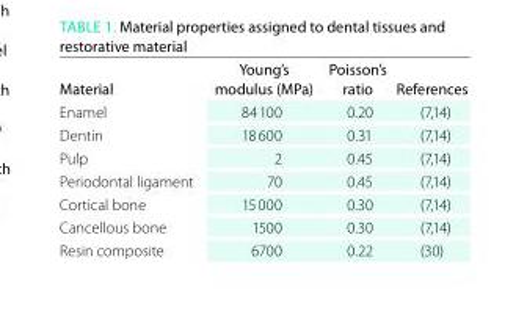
<table><thead><tr><td>Material</td><td>Young’s modulus (MPa)</td><td>Poisson’s ratio</td><td>references</td></tr></thead><tbody><tr><td>Enamel</td><td>84 100</td><td>0.20</td><td>(7,14)</td></tr><tr><td>Dentin</td><td>18 600</td><td>0.31</td><td>(7,14)</td></tr><tr><td>Pulp</td><td>2</td><td>0.45</td><td>(7,14)</td></tr><tr><td>Periodontal ligament</td><td>70</td><td>0.45</td><td>(7,14)</td></tr><tr><td>Cortical bone</td><td>15 000</td><td>0.30</td><td>(7,14)</td></tr><tr><td>Cancellous bone</td><td>1500</td><td>0.30</td><td>(7,14)</td></tr><tr><td>Resin composite</td><td>6700</td><td>0.22</td><td>(30)</td></tr></tbody></table>